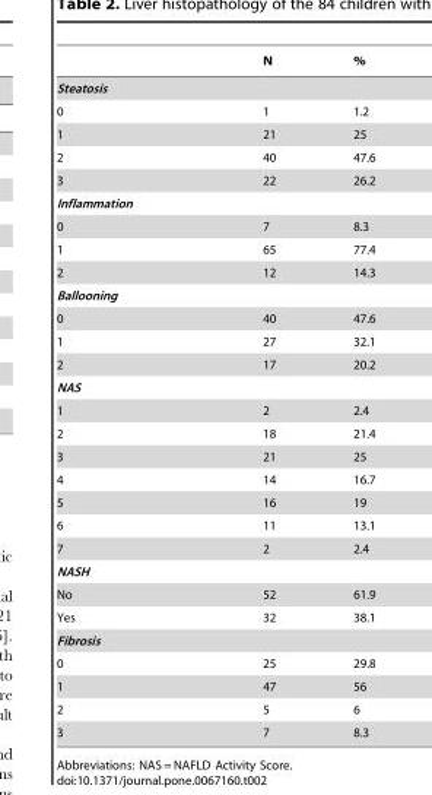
<table><thead><tr><td></td><td>N</td><td>%</td></tr></thead><tbody><tr><td colspan="3">Steatosis</td></tr><tr><td>0</td><td>1</td><td>1.2</td></tr><tr><td>1</td><td>21</td><td>25</td></tr><tr><td>2</td><td>40</td><td>47.6</td></tr><tr><td>3</td><td>22</td><td>26.2</td></tr><tr><td colspan="3">Inflammation</td></tr><tr><td>0</td><td>7</td><td>8.3</td></tr><tr><td>1</td><td>65</td><td>77.4</td></tr><tr><td>2</td><td>12</td><td>14.3</td></tr><tr><td colspan="3">Ballooning</td></tr><tr><td>0</td><td>40</td><td>47.6</td></tr><tr><td>1</td><td>27</td><td>32.1</td></tr><tr><td>2</td><td>17</td><td>20.2</td></tr><tr><td colspan="3">NAS</td></tr><tr><td>1</td><td>2</td><td>2.4</td></tr><tr><td>2</td><td>18</td><td>21.4</td></tr><tr><td>3</td><td>21</td><td>25</td></tr><tr><td>4</td><td>14</td><td>16.7</td></tr><tr><td>5</td><td>16</td><td>19</td></tr><tr><td>6</td><td>11</td><td>13.1</td></tr><tr><td>7</td><td>2</td><td>2.4</td></tr><tr><td colspan="3">NASH</td></tr><tr><td>No</td><td>52</td><td>61.9</td></tr><tr><td>Yes</td><td>32</td><td>38.1</td></tr><tr><td colspan="3">Fibrosis</td></tr><tr><td>0</td><td>25</td><td>29.8</td></tr><tr><td>1</td><td>47</td><td>56</td></tr><tr><td>2</td><td>5</td><td>6</td></tr><tr><td>3</td><td>7</td><td>8.3</td></tr></tbody></table>